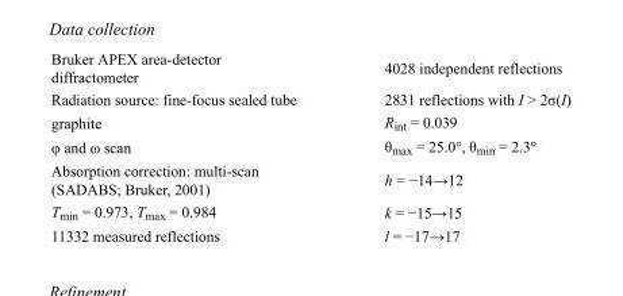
<table><tbody><tr><td>Bruker APEX area-detector diffractometer</td><td>4028 independent reflections</td></tr><tr><td>Radiation source: fine-focus sealed tube</td><td>2831 reflections with I &gt; 2σ(I)</td></tr><tr><td>graphite</td><td>R<sub>int</sub> = 0.039</td></tr><tr><td>φ and ω scan</td><td>θ<sub>max</sub> = 25.0°, θ<sub>min</sub> = 2.3°</td></tr><tr><td>Absorption correction: multi-scan (SADABS; Bruker, 2001)</td><td>h = −14→12</td></tr><tr><td>T<sub>min</sub> = 0.973, T<sub>max</sub> = 0.984</td><td>k = −15→15</td></tr><tr><td>11332 measured reflections</td><td>l = −17→17</td></tr></tbody></table>